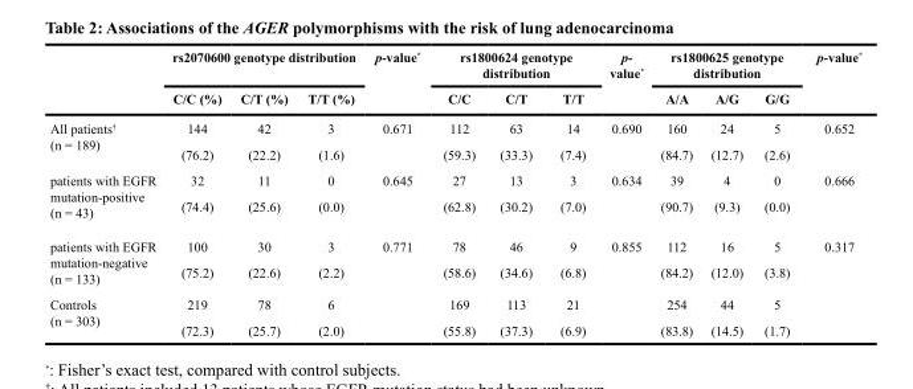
<table><thead><tr><td rowspan="2"></td><td colspan="3">rs2070600 genotype distribution</td><td rowspan="2">p-value*</td><td colspan="3">rs1800624 genotype distribution</td><td rowspan="2">p- value*</td><td colspan="3">rs1800625 genotype distribution</td><td rowspan="2">p-value*</td></tr><tr><td>C/C (%)</td><td>C/T (%)</td><td>T/T (%)</td><td>C/C</td><td>C/T</td><td>T/T</td><td>A/A</td><td>A/G</td><td>G/G</td></tr></thead><tbody><tr><td rowspan="2">All patients<sup>†</sup> (n = 189)</td><td>144</td><td>42</td><td>3</td><td rowspan="2">0.671</td><td>112</td><td>63</td><td>14</td><td rowspan="2">0.690</td><td>160</td><td>24</td><td>5</td><td rowspan="2">0.652</td></tr><tr><td>(76.2)</td><td>(22.2)</td><td>(1.6)</td><td>(59.3)</td><td>(33.3)</td><td>(7.4)</td><td>(84.7)</td><td>(12.7)</td><td>(2.6)</td></tr><tr><td rowspan="2">patients with EGFR mutation-positive (n = 43)</td><td>32</td><td>11</td><td>0</td><td rowspan="2">0.645</td><td>27</td><td>13</td><td>3</td><td rowspan="2">0.634</td><td>39</td><td>4</td><td>0</td><td rowspan="2">0.666</td></tr><tr><td>(74.4)</td><td>(25.6)</td><td>(0.0)</td><td>(62.8)</td><td>(30.2)</td><td>(7.0)</td><td>(90.7)</td><td>(9.3)</td><td>(0.0)</td></tr><tr><td rowspan="2">patients with EGFR mutation-negative (n = 133)</td><td>100</td><td>30</td><td>3</td><td rowspan="2">0.771</td><td>78</td><td>46</td><td>9</td><td rowspan="2">0.855</td><td>112</td><td>16</td><td>5</td><td rowspan="2">0.317</td></tr><tr><td>(75.2)</td><td>(22.6)</td><td>(2.2)</td><td>(58.6)</td><td>(34.6)</td><td>(6.8)</td><td>(84.2)</td><td>(12.0)</td><td>(3.8)</td></tr><tr><td rowspan="2">Controls (n = 303)</td><td>219</td><td>78</td><td>6</td><td></td><td>169</td><td>113</td><td>21</td><td></td><td>254</td><td>44</td><td>5</td><td></td></tr><tr><td>(72.3)</td><td>(25.7)</td><td>(2.0)</td><td></td><td>(55.8)</td><td>(37.3)</td><td>(6.9)</td><td></td><td>(83.8)</td><td>(14.5)</td><td>(1.7)</td><td></td></tr></tbody></table>